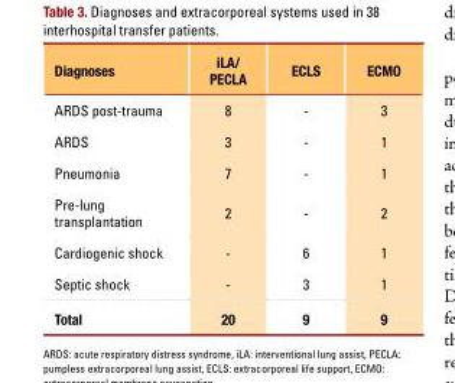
<table><thead><tr><td>Diagnoses</td><td>iLA/ PECLA</td><td>ECLS</td><td>ECMO</td></tr></thead><tbody><tr><td>ArDS post-trauma</td><td>8</td><td>-</td><td>3</td></tr><tr><td>ArDS</td><td>3</td><td>-</td><td>1</td></tr><tr><td>pneumonia</td><td>7</td><td>-</td><td>1</td></tr><tr><td>pre-lung transplantation</td><td>2</td><td>-</td><td>2</td></tr><tr><td>cardiogenic shock</td><td>-</td><td>6</td><td>1</td></tr><tr><td>Septic shock</td><td>-</td><td>3</td><td>1</td></tr><tr><td>Total</td><td>20</td><td>9</td><td>9</td></tr></tbody></table>